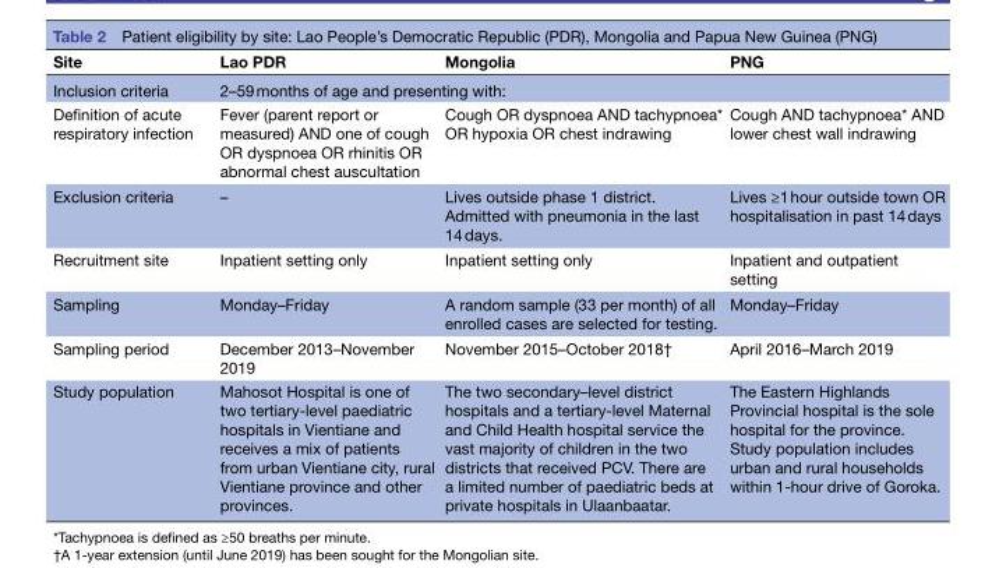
<table><thead><tr><td>Site</td><td>Lao PDR</td><td>Mongolia</td><td>PNG</td></tr></thead><tbody><tr><td>Inclusion criteria</td><td colspan="3">2–59 months of age and presenting with:</td></tr><tr><td>Definition of acute respiratory infection</td><td>Fever (parent report or measured) AND one of cough OR dyspnoea OR rhinitis OR abnormal chest auscultation</td><td>Cough OR dyspnoea AND tachypnoea* OR hypoxia OR chest indrawing</td><td>Cough AND tachypnoea* AND lower chest wall indrawing</td></tr><tr><td>Exclusion criteria</td><td>–</td><td>Lives outside phase 1 district. Admitted with pneumonia in the last 14 days.</td><td>Lives ≥1 hour outside town OR hospitalisation in past 14 days</td></tr><tr><td>Recruitment site</td><td>Inpatient setting only</td><td>Inpatient setting only</td><td>Inpatient and outpatient setting</td></tr><tr><td>Sampling</td><td>Monday–Friday</td><td>A random sample (33 per month) of all enrolled cases are selected for testing.</td><td>Monday–Friday</td></tr><tr><td>Sampling period</td><td>December 2013–November 2019</td><td>November 2015–October 2018†</td><td>April 2016–March 2019</td></tr><tr><td>Study population</td><td>Mahosot Hospital is one of two tertiary-level paediatric hospitals in Vientiane and receives a mix of patients from urban Vientiane city, rural Vientiane province and other provinces.</td><td>The two secondary–level district hospitals and a tertiary-level Maternal and Child Health hospital service the vast majority of children in the two districts that received PCV. There are a limited number of paediatric beds at private hospitals in Ulaanbaatar.</td><td>The Eastern Highlands Provincial hospital is the sole hospital for the province. Study population includes urban and rural households within 1-hour drive of Goroka.</td></tr></tbody></table>